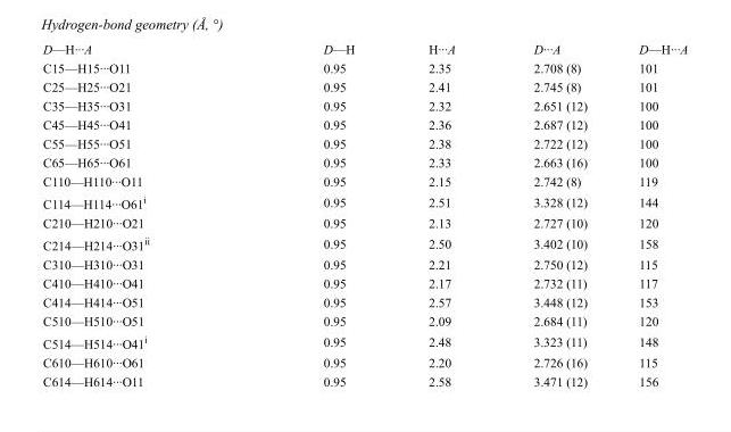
<table><tbody><tr><td>D—H···A</td><td>D—H</td><td>H···A</td><td>D···A</td><td>D—H···A</td></tr><tr><td>C15—H15···O11</td><td>0.95</td><td>2.35</td><td>2.708 (8)</td><td>101</td></tr><tr><td>C25—H25···O21</td><td>0.95</td><td>2.41</td><td>2.745 (8)</td><td>101</td></tr><tr><td>C35—H35···O31</td><td>0.95</td><td>2.32</td><td>2.651 (12)</td><td>100</td></tr><tr><td>C45—H45···O41</td><td>0.95</td><td>2.36</td><td>2.687 (12)</td><td>100</td></tr><tr><td>C55—H55···O51</td><td>0.95</td><td>2.38</td><td>2.722 (12)</td><td>100</td></tr><tr><td>C65—H65···O61</td><td>0.95</td><td>2.33</td><td>2.663 (16)</td><td>100</td></tr><tr><td>C110—H110···O11</td><td>0.95</td><td>2.15</td><td>2.742 (8)</td><td>119</td></tr><tr><td>C114—H114···O61<sup>i</sup></td><td>0.95</td><td>2.51</td><td>3.328 (12)</td><td>144</td></tr><tr><td>C210—H210···O21</td><td>0.95</td><td>2.13</td><td>2.727 (10)</td><td>120</td></tr><tr><td>C214—H214···O31<sup>ii</sup></td><td>0.95</td><td>2.50</td><td>3.402 (10)</td><td>158</td></tr><tr><td>C310—H310···O31</td><td>0.95</td><td>2.21</td><td>2.750 (12)</td><td>115</td></tr><tr><td>C410—H410···O41</td><td>0.95</td><td>2.17</td><td>2.732 (11)</td><td>117</td></tr><tr><td>C414—H414···O51</td><td>0.95</td><td>2.57</td><td>3.448 (12)</td><td>153</td></tr><tr><td>C510—H510···O51</td><td>0.95</td><td>2.09</td><td>2.684 (11)</td><td>120</td></tr><tr><td>C514—H514···O41<sup>i</sup></td><td>0.95</td><td>2.48</td><td>3.323 (11)</td><td>148</td></tr><tr><td>C610—H610···O61</td><td>0.95</td><td>2.20</td><td>2.726 (16)</td><td>115</td></tr><tr><td>C614—H614···O11</td><td>0.95</td><td>2.58</td><td>3.471 (12)</td><td>156</td></tr></tbody></table>